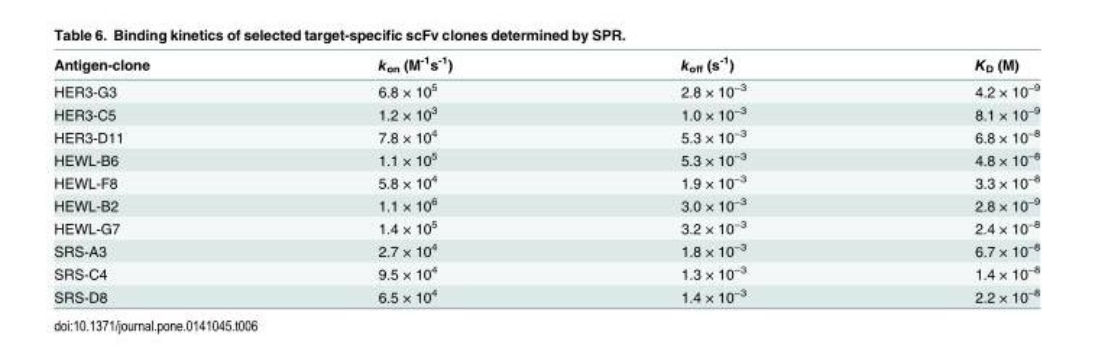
<table><thead><tr><td>Antigen-clone</td><td>k<sub>on</sub> (M<sup>-1</sup>s<sup>-1</sup>)</td><td>k<sub>off</sub> (s<sup>-1</sup>)</td><td>K<sub>D</sub> (M)</td></tr></thead><tbody><tr><td>HER3-G3</td><td>6.8 × 10<sup>5</sup></td><td>2.8 × 10<sup>−3</sup></td><td>4.2 × 10<sup>−9</sup></td></tr><tr><td>HER3-C5</td><td>1.2 × 10<sup>3</sup></td><td>1.0 × 10<sup>−3</sup></td><td>8.1 × 10<sup>−9</sup></td></tr><tr><td>HER3-D11</td><td>7.8 × 10<sup>4</sup></td><td>5.3 × 10<sup>−3</sup></td><td>6.8 × 10<sup>−8</sup></td></tr><tr><td>HEWL-B6</td><td>1.1 × 10<sup>5</sup></td><td>5.3 × 10<sup>−3</sup></td><td>4.8 × 10<sup>−8</sup></td></tr><tr><td>HEWL-F8</td><td>5.8 × 10<sup>4</sup></td><td>1.9 × 10<sup>−3</sup></td><td>3.3 × 10<sup>−8</sup></td></tr><tr><td>HEWL-B2</td><td>1.1 × 10<sup>6</sup></td><td>3.0 × 10<sup>−3</sup></td><td>2.8 × 10<sup>−9</sup></td></tr><tr><td>HEWL-G7</td><td>1.4 × 10<sup>5</sup></td><td>3.2 × 10<sup>−3</sup></td><td>2.4 × 10<sup>−8</sup></td></tr><tr><td>SRS-A3</td><td>2.7 × 10<sup>4</sup></td><td>1.8 × 10<sup>−3</sup></td><td>6.7 × 10<sup>−8</sup></td></tr><tr><td>SRS-C4</td><td>9.5 × 10<sup>4</sup></td><td>1.3 × 10<sup>−3</sup></td><td>1.4 × 10<sup>−8</sup></td></tr><tr><td>SRS-D8</td><td>6.5 × 10<sup>4</sup></td><td>1.4 × 10<sup>−3</sup></td><td>2.2 × 10<sup>−8</sup></td></tr></tbody></table>